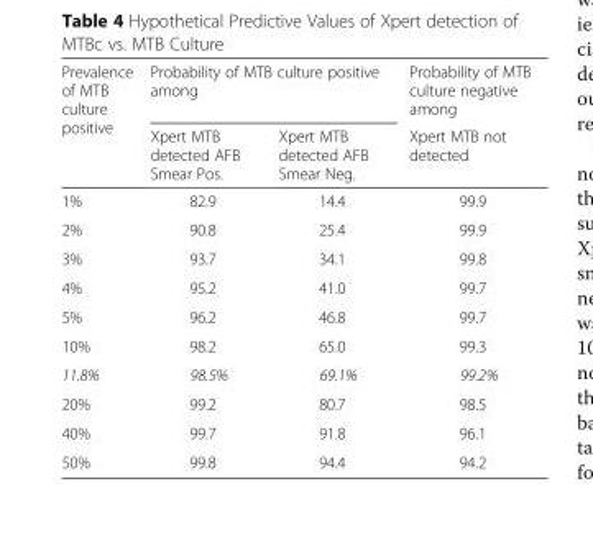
<table><thead><tr><td rowspan="2">Prevalence of MTB culture positive</td><td colspan="2">Probability of MTB culture positive among</td><td rowspan="2">Probability of MTB culture negative among Xpert MTB not detected</td></tr><tr><td>Xpert MTB detected AFB Smear Pos.</td><td>Xpert MTB detected AFB Smear Neg.</td></tr></thead><tbody><tr><td>1%</td><td>82.9</td><td>14.4</td><td>99.9</td></tr><tr><td>2%</td><td>90.8</td><td>25.4</td><td>99.9</td></tr><tr><td>3%</td><td>93.7</td><td>34.1</td><td>99.8</td></tr><tr><td>4%</td><td>95.2</td><td>41.0</td><td>99.7</td></tr><tr><td>5%</td><td>96.2</td><td>46.8</td><td>99.7</td></tr><tr><td>10%</td><td>98.2</td><td>65.0</td><td>99.3</td></tr><tr><td>11.8%</td><td>98.5%</td><td>69.1%</td><td>99.2%</td></tr><tr><td>20%</td><td>99.2</td><td>80.7</td><td>98.5</td></tr><tr><td>40%</td><td>99.7</td><td>91.8</td><td>96.1</td></tr><tr><td>50%</td><td>99.8</td><td>94.4</td><td>94.2</td></tr></tbody></table>